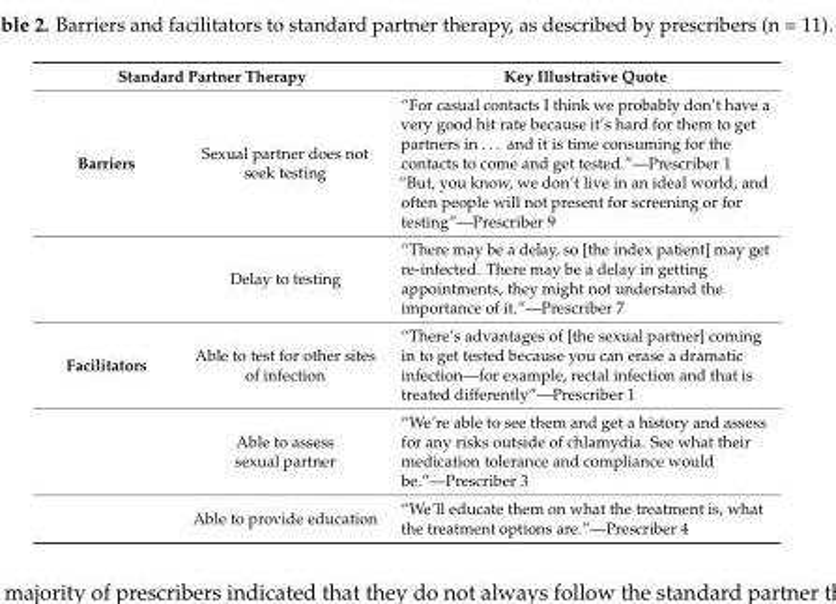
<table><thead><tr><td colspan="2">Standard Partner Therapy</td><td rowspan="2">Key Illustrative Quote “For casual contacts I think we probably don’t have a very good hit rate because it’s hard for them to get partners in . . . and it is time consuming for the contacts to come and get tested.”—Prescriber 1 “But, you know, we don’t live in an ideal world, and often people will not present for screening or for testing”—Prescriber 9</td></tr><tr><td>Barriers</td><td>Sexual partner does not seek testing</td></tr></thead><tbody><tr><td></td><td>Delay to testing</td><td>“There may be a delay, so [the index patient] may get re-infected. There may be a delay in getting appointments, they might not understand the importance of it.”—Prescriber 7</td></tr><tr><td rowspan="3">Facilitators</td><td>Able to test for other sites of infection</td><td>“There’s advantages of [the sexual partner] coming in to get tested because you can erase a dramatic infection—for example, rectal infection and that is treated differently”—Prescriber 1</td></tr><tr><td>Able to assess sexual partner</td><td>“We’re able to see them and get a history and assess for any risks outside of chlamydia. See what their medication tolerance and compliance would be.”—Prescriber 3</td></tr><tr><td>Able to provide education</td><td>“We’ll educate them on what the treatment is, what the treatment options are.”—Prescriber 4</td></tr></tbody></table>